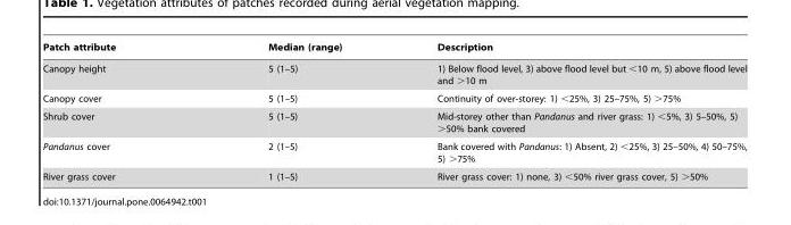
<table><thead><tr><td>Patch attribute</td><td>Median (range)</td><td>Description</td></tr></thead><tbody><tr><td>Canopy height</td><td>5 (1–5)</td><td>1) Below flood level, 3) above flood level but &lt;10 m, 5) above flood level and &gt;10 m</td></tr><tr><td>Canopy cover</td><td>5 (1–5)</td><td>Continuity of over-storey: 1) &lt;25%, 3) 25–75%, 5) &gt;75%</td></tr><tr><td>Shrub cover</td><td>5 (1–5)</td><td>Mid-storey other than Pandanus and river grass: 1) &lt;5%, 3) 5–50%, 5) &gt;50% bank covered</td></tr><tr><td>Pandanus cover</td><td>2 (1–5)</td><td>Bank covered with Pandanus: 1) Absent, 2) &lt;25%, 3) 25–50%, 4) 50–75%, 5) &gt;75%</td></tr><tr><td>River grass cover</td><td>1 (1–5)</td><td>River grass cover: 1) none, 3) &lt;50% river grass cover, 5) &gt;50%</td></tr></tbody></table>